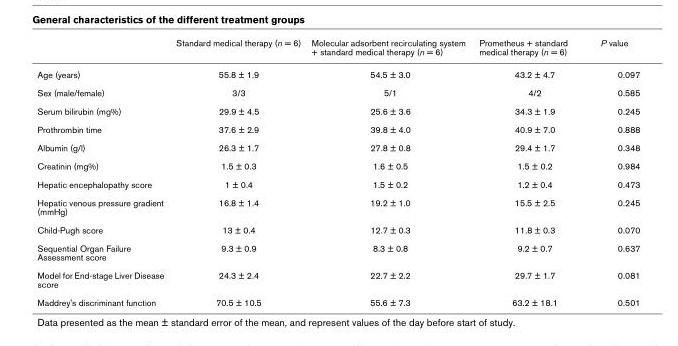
<table><thead><tr><td></td><td>Standard medical therapy (n = 6)</td><td>Molecular adsorbent recirculating system + standard medical therapy (n = 6)</td><td>Prometheus + standard medical therapy (n = 6)</td><td>P value</td></tr></thead><tbody><tr><td>Age (years)</td><td>55.8 ± 1.9</td><td>54.5 ± 3.0</td><td>43.2 ± 4.7</td><td>0.097</td></tr><tr><td>Sex (male/female)</td><td>3/3</td><td>5/1</td><td>4/2</td><td>0.585</td></tr><tr><td>Serum bilirubin (mg%)</td><td>29.9 ± 4.5</td><td>25.6 ± 3.6</td><td>34.3 ± 1.9</td><td>0.245</td></tr><tr><td>Prothrombin time</td><td>37.6 ± 2.9</td><td>39.8 ± 4.0</td><td>40.9 ± 7.0</td><td>0.888</td></tr><tr><td>Albumin (g/l)</td><td>26.3 ± 1.7</td><td>27.8 ± 0.8</td><td>29.4 ± 1.7</td><td>0.348</td></tr><tr><td>Creatinin (mg%)</td><td>1.5 ± 0.3</td><td>1.6 ± 0.5</td><td>1.5 ± 0.2</td><td>0.984</td></tr><tr><td>Hepatic encephalopathy score</td><td>1 ± 0.4</td><td>1.5 ± 0.2</td><td>1.2 ± 0.4</td><td>0.473</td></tr><tr><td>Hepatic venous pressure gradient (mmHg)</td><td>16.8 ± 1.4</td><td>19.2 ± 1.0</td><td>15.5 ± 2.5</td><td>0.245</td></tr><tr><td>Child-Pugh score</td><td>13 ± 0.4</td><td>12.7 ± 0.3</td><td>11.8 ± 0.3</td><td>0.070</td></tr><tr><td>Sequential Organ Failure Assessment score</td><td>9.3 ± 0.9</td><td>8.3 ± 0.8</td><td>9.2 ± 0.7</td><td>0.637</td></tr><tr><td>Model for End-stage Liver Disease score</td><td>24.3 ± 2.4</td><td>22.7 ± 2.2</td><td>29.7 ± 1.7</td><td>0.081</td></tr><tr><td>Maddrey&#x27;s discriminant function</td><td>70.5 ± 10.5</td><td>55.6 ± 7.3</td><td>63.2 ± 18.1</td><td>0.501</td></tr></tbody></table>